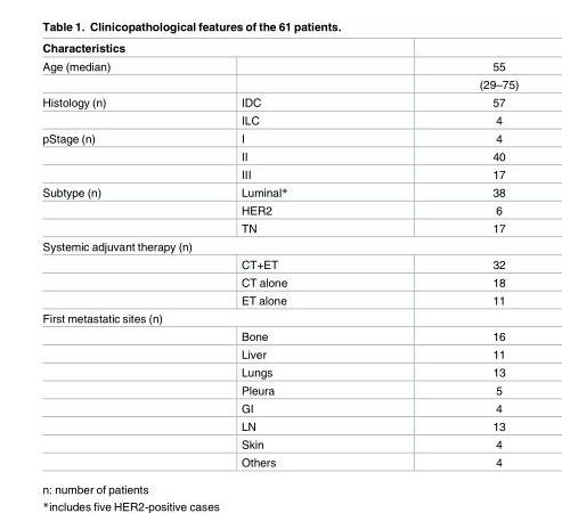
<table><thead><tr><td colspan="2">Characteristics</td><td rowspan="2">55</td></tr><tr><td>Age (median)</td><td></td></tr></thead><tbody><tr><td></td><td></td><td>(29–75)</td></tr><tr><td rowspan="2">Histology (n)</td><td>IDC</td><td>57</td></tr><tr><td>ILC</td><td>4</td></tr><tr><td rowspan="3">pStage (n)</td><td>I</td><td>4</td></tr><tr><td>II</td><td>40</td></tr><tr><td>III</td><td>17</td></tr><tr><td rowspan="3">Subtype (n)</td><td>Luminal*</td><td>38</td></tr><tr><td>HER2</td><td>6</td></tr><tr><td>TN</td><td>17</td></tr><tr><td colspan="3">Systemic adjuvant therapy (n)</td></tr><tr><td></td><td>CT+ET</td><td>32</td></tr><tr><td></td><td>CT alone</td><td>18</td></tr><tr><td></td><td>ET alone</td><td>11</td></tr><tr><td colspan="3">First metastatic sites (n)</td></tr><tr><td></td><td>Bone</td><td>16</td></tr><tr><td></td><td>Liver</td><td>11</td></tr><tr><td></td><td>Lungs</td><td>13</td></tr><tr><td></td><td>Pleura</td><td>5</td></tr><tr><td></td><td>GI</td><td>4</td></tr><tr><td></td><td>LN</td><td>13</td></tr><tr><td></td><td>Skin</td><td>4</td></tr><tr><td></td><td>Others</td><td>4</td></tr></tbody></table>